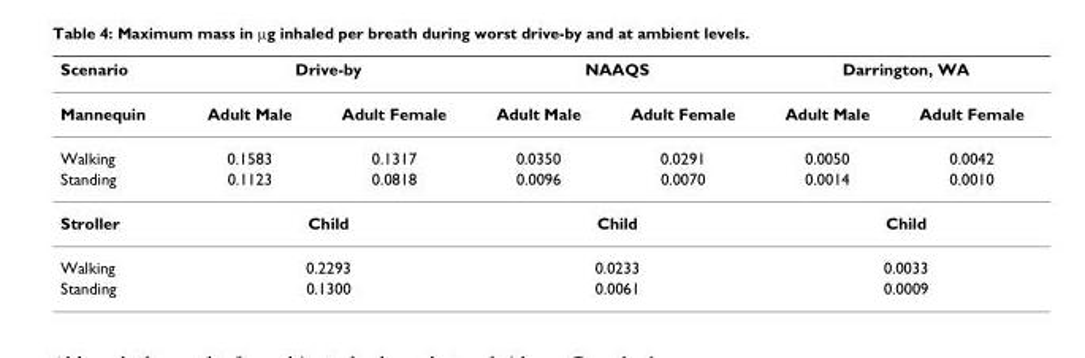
<table><thead><tr><td rowspan="2">Scenario Mannequin</td><td colspan="2">Drive-by</td><td colspan="2">NAAQS</td><td colspan="2">Darrington, WA</td></tr><tr><td>Adult Male</td><td>Adult Female</td><td>Adult Male</td><td>Adult Female</td><td>Adult Male</td><td>Adult Female</td></tr></thead><tbody><tr><td>Walking</td><td>0.1583</td><td>0.1317</td><td>0.0350</td><td>0.0291</td><td>0.0050</td><td>0.0042</td></tr><tr><td>Standing</td><td>0.1123</td><td>0.0818</td><td>0.0096</td><td>0.0070</td><td>0.0014</td><td>0.0010</td></tr><tr><td>Stroller</td><td colspan="2">Child</td><td colspan="2">Child</td><td colspan="2">Child</td></tr><tr><td>Walking</td><td colspan="2">0.2293</td><td colspan="2">0.0233</td><td colspan="2">0.0033</td></tr><tr><td>Standing</td><td colspan="2">0.1300</td><td colspan="2">0.0061</td><td colspan="2">0.0009</td></tr></tbody></table>